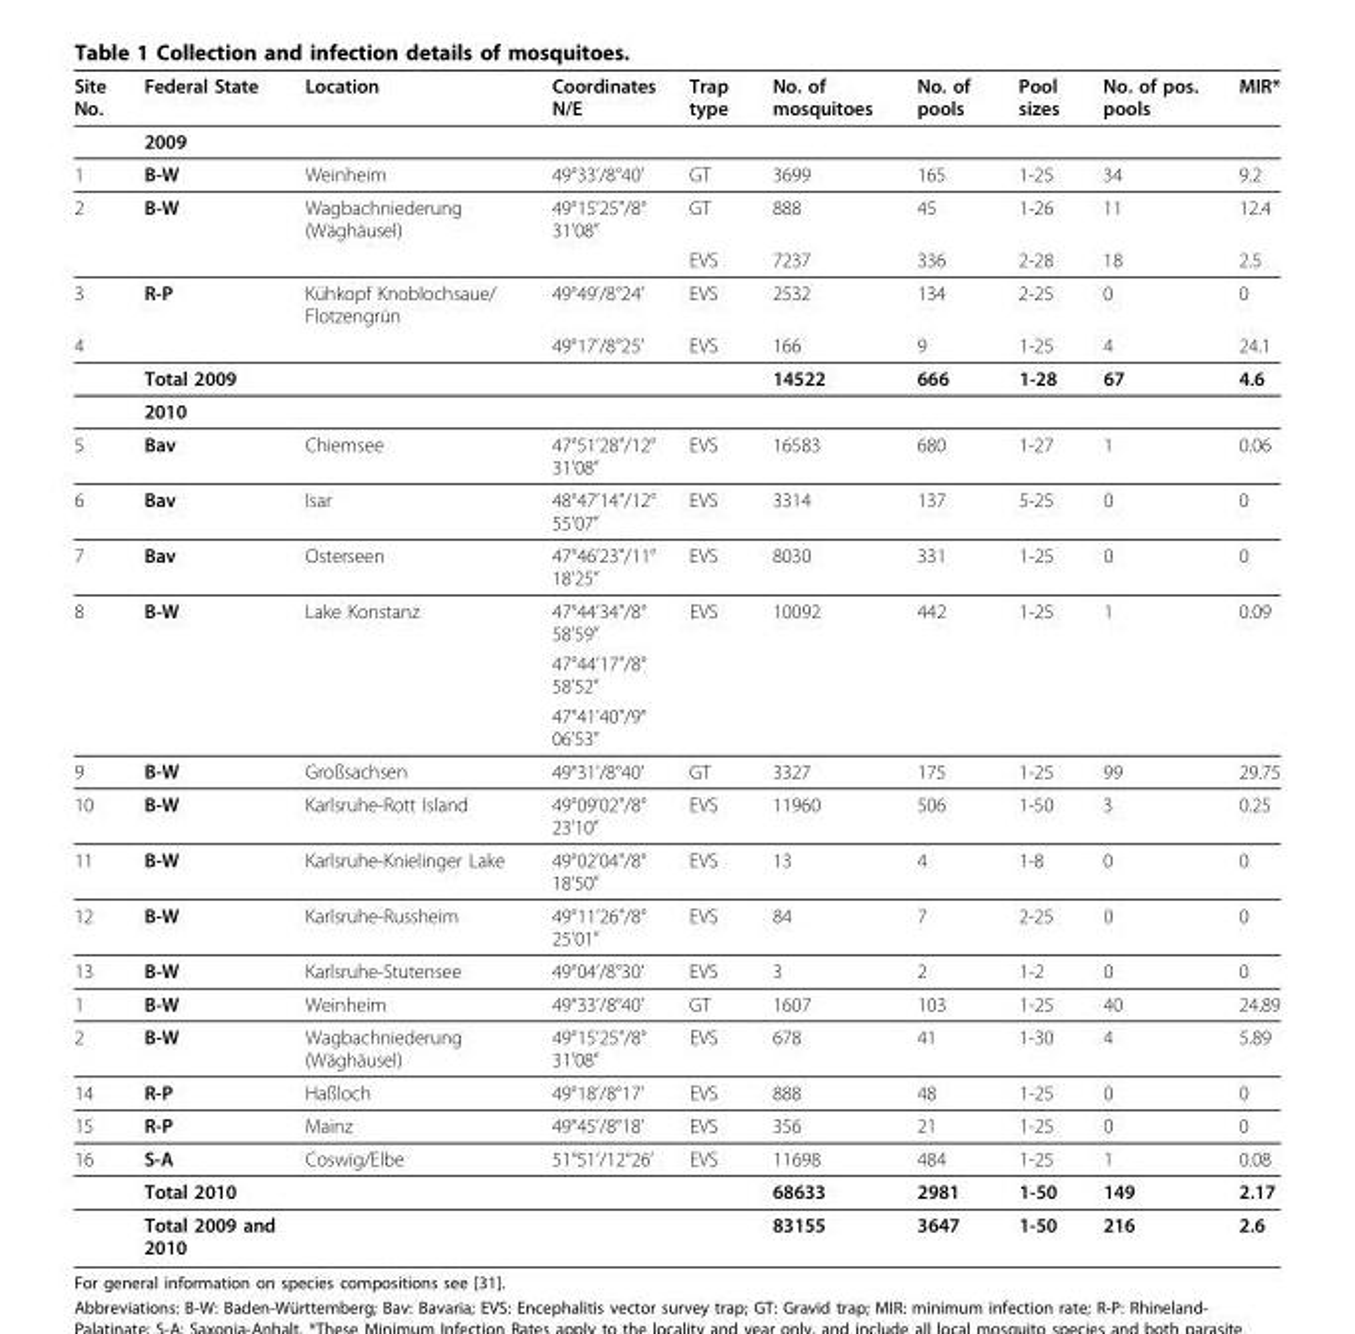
<table><thead><tr><td>Site No.</td><td>Federal State</td><td>Location</td><td>Coordinates N/E</td><td>Trap type</td><td>No. of mosquitoes</td><td>No. of pools</td><td>Pool sizes</td><td>No. of pos. pools</td><td>MIR*</td></tr></thead><tbody><tr><td></td><td>2009</td><td></td><td></td><td></td><td></td><td></td><td></td><td></td><td></td></tr><tr><td>1</td><td>B-W</td><td>Weinheim</td><td>49°33’/8°40’</td><td>GT</td><td>3699</td><td>165</td><td>1-25</td><td>34</td><td>9.2</td></tr><tr><td rowspan="2">2</td><td>B-W</td><td>Wagbachniederung (Wäghäusel)</td><td>49°15’25&quot;/8° 31’08”</td><td>GT</td><td>888</td><td>45</td><td>1-26</td><td>11</td><td>12.4</td></tr><tr><td></td><td></td><td></td><td>EVS</td><td>7237</td><td>336</td><td>2-28</td><td>18</td><td>2.5</td></tr><tr><td>3</td><td>R-P</td><td>Kühkopf Knoblochsaue/ Flotzengrün</td><td>49°49’/8°24’</td><td>EVS</td><td>2532</td><td>134</td><td>2-25</td><td>0</td><td>0</td></tr><tr><td rowspan="3">4</td><td></td><td></td><td>49°17’/8°25’</td><td>EVS</td><td>166</td><td>9</td><td>1-25</td><td>4</td><td>24.1</td></tr><tr><td>Total 2009</td><td></td><td></td><td></td><td>14522</td><td>666</td><td>1-28</td><td>67</td><td>4.6</td></tr><tr><td>2010</td><td></td><td></td><td></td><td></td><td></td><td></td><td></td><td></td></tr><tr><td>5</td><td>Bav</td><td>Chiemsee</td><td>47°51’28&quot;/12° 31’08”</td><td>EVS</td><td>16583</td><td>680</td><td>1-27</td><td>1</td><td>0.06</td></tr><tr><td>6</td><td>Bav</td><td>Isar</td><td>48°47’14&quot;/12° 55’07”</td><td>EVS</td><td>3314</td><td>137</td><td>5-25</td><td>0</td><td>0</td></tr><tr><td>7</td><td>Bav</td><td>Osterseen</td><td>47°46’23&quot;/11° 18’25”</td><td>EVS</td><td>8030</td><td>331</td><td>1-25</td><td>0</td><td>0</td></tr><tr><td rowspan="3">8</td><td>B-W</td><td>Lake Konstanz</td><td>47°44’34&quot;/8° 58’59”</td><td>EVS</td><td>10092</td><td>442</td><td>1-25</td><td>1</td><td>0.09</td></tr><tr><td></td><td></td><td>47°44’17&quot;/8° 58’52”</td><td></td><td></td><td></td><td></td><td></td><td></td></tr><tr><td></td><td></td><td>47°41’40&quot;/9° 06’53”</td><td></td><td></td><td></td><td></td><td></td><td></td></tr><tr><td>9</td><td>B-W</td><td>Großsachsen</td><td>49°31’/8°40’</td><td>GT</td><td>3327</td><td>175</td><td>1-25</td><td>99</td><td>29.75</td></tr><tr><td>10</td><td>B-W</td><td>Karlsruhe-Rott Island</td><td>49°09’02&quot;/8° 23’10”</td><td>EVS</td><td>11960</td><td>506</td><td>1-50</td><td>3</td><td>0.25</td></tr><tr><td>11</td><td>B-W</td><td>Karlsruhe-Knielinger Lake</td><td>49°02’04&quot;/8° 18’50”</td><td>EVS</td><td>13</td><td>4</td><td>1-8</td><td>0</td><td>0</td></tr><tr><td>12</td><td>B-W</td><td>Karlsruhe-Russheim</td><td>49°11’26&quot;/8° 25’01”</td><td>EVS</td><td>84</td><td>7</td><td>2-25</td><td>0</td><td>0</td></tr><tr><td>13</td><td>B-W</td><td>Karlsruhe-Stutensee</td><td>49°04’/8°30’</td><td>EVS</td><td>3</td><td>2</td><td>1-2</td><td>0</td><td>0</td></tr><tr><td>1</td><td>B-W</td><td>Weinheim</td><td>49°33’/8°40’</td><td>GT</td><td>1607</td><td>103</td><td>1-25</td><td>40</td><td>24.89</td></tr><tr><td>2</td><td>B-W</td><td>Wagbachniederung (Wäghäusel)</td><td>49°15’25&quot;/8° 31’08”</td><td>EVS</td><td>678</td><td>41</td><td>1-30</td><td>4</td><td>5.89</td></tr><tr><td>14</td><td>R-P</td><td>Haßloch</td><td>49°18’/8°17’</td><td>EVS</td><td>888</td><td>48</td><td>1-25</td><td>0</td><td>0</td></tr><tr><td>15</td><td>R-P</td><td>Mainz</td><td>49°45’/8°18’</td><td>EVS</td><td>356</td><td>21</td><td>1-25</td><td>0</td><td>0</td></tr><tr><td rowspan="3">16</td><td>S-A</td><td>Coswig/Elbe</td><td>51°51’/12°26’</td><td>EVS</td><td>11698</td><td>484</td><td>1-25</td><td>1</td><td>0.08</td></tr><tr><td>Total 2010</td><td></td><td></td><td></td><td>68633</td><td>2981</td><td>1-50</td><td>149</td><td>2.17</td></tr><tr><td>Total 2009 and 2010</td><td></td><td></td><td></td><td>83155</td><td>3647</td><td>1-50</td><td>216</td><td>2.6</td></tr></tbody></table>